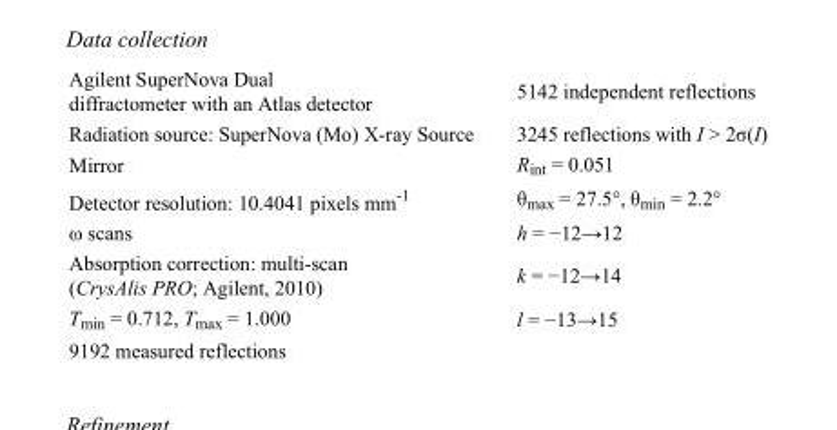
<table><tbody><tr><td>Agilent SuperNova Dual diffractometer with an Atlas detector</td><td>5142 independent reflections</td></tr><tr><td>Radiation source: SuperNova (Mo) X-ray Source</td><td>3245 reflections with I &gt; 2σ(I)</td></tr><tr><td>Mirror</td><td>R<sub>int</sub> = 0.051</td></tr><tr><td>Detector resolution: 10.4041 pixels mm<sup>-1</sup></td><td>θ<sub>max</sub> = 27.5°, θ<sub>min</sub> = 2.2°</td></tr><tr><td>ω scans</td><td>h = −12→12</td></tr><tr><td>Absorption correction: multi-scan (CrysAlis PRO; Agilent, 2010)</td><td>k = −12→14</td></tr><tr><td>T<sub>min</sub> = 0.712, T<sub>max</sub> = 1.000</td><td>l = −13→15</td></tr><tr><td>9192 measured reflections</td><td></td></tr></tbody></table>